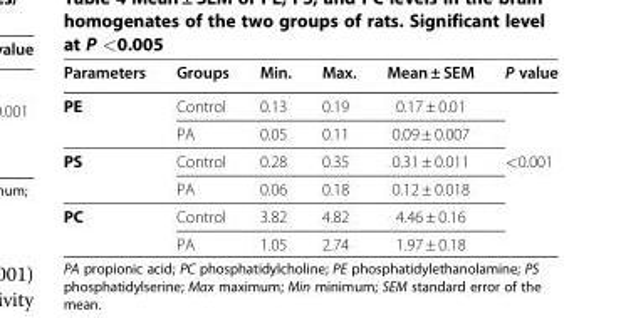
<table><thead><tr><td>Parameters</td><td>Groups</td><td>Min.</td><td>Max.</td><td>Mean ± SEM</td><td>P value</td></tr></thead><tbody><tr><td rowspan="2">PE</td><td>Control</td><td>0.13</td><td>0.19</td><td>0.17 ± 0.01</td><td></td></tr><tr><td>PA</td><td>0.05</td><td>0.11</td><td>0.09 ± 0.007</td><td></td></tr><tr><td rowspan="2">PS</td><td>Control</td><td>0.28</td><td>0.35</td><td>0.31 ± 0.011</td><td>&lt;0.001</td></tr><tr><td>PA</td><td>0.06</td><td>0.18</td><td>0.12 ± 0.018</td><td></td></tr><tr><td rowspan="2">PC</td><td>Control</td><td>3.82</td><td>4.82</td><td>4.46 ± 0.16</td><td></td></tr><tr><td>PA</td><td>1.05</td><td>2.74</td><td>1.97 ± 0.18</td><td></td></tr></tbody></table>